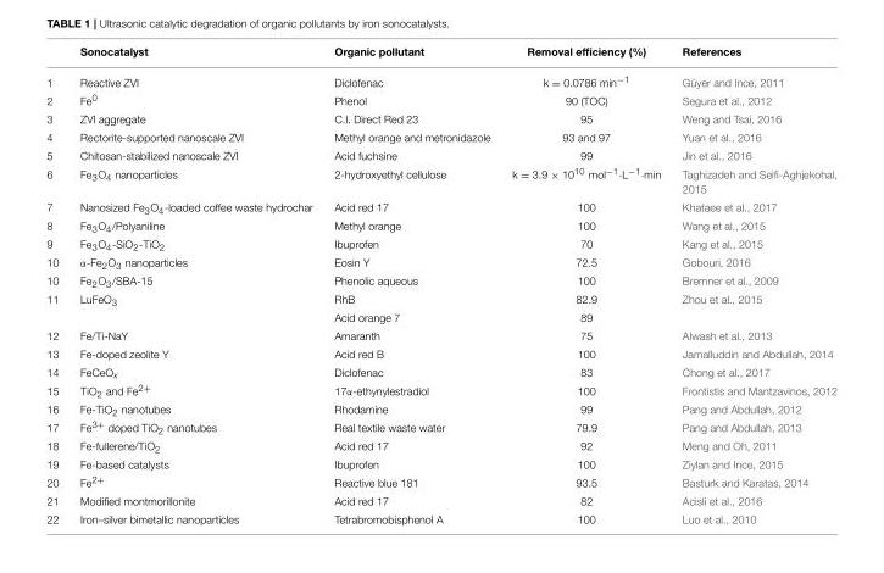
<table><thead><tr><td></td><td>Sonocatalyst</td><td>Organic pollutant</td><td>Removal efficiency (%)</td><td>References</td></tr></thead><tbody><tr><td>1</td><td>Reactive ZVI</td><td>Diclofenac</td><td>k = 0.0786 min<sup>−1</sup></td><td>Güyer and Ince, 2011</td></tr><tr><td>2</td><td>Fe<sup>0</sup></td><td>Phenol</td><td>90 (TOC)</td><td>Segura et al., 2012</td></tr><tr><td>3</td><td>ZVI aggregate</td><td>C.I. Direct Red 23</td><td>95</td><td>Weng and Tsai, 2016</td></tr><tr><td>4</td><td>Rectorite-supported nanoscale ZVI</td><td>Methyl orange and metronidazole</td><td>93 and 97</td><td>Yuan et al., 2016</td></tr><tr><td>5</td><td>Chitosan-stabilized nanoscale ZVI</td><td>Acid fuchsine</td><td>99</td><td>Jin et al., 2016</td></tr><tr><td>6</td><td>Fe<sub>3</sub>O<sub>4</sub> nanoparticles</td><td>2-hydroxyethyl cellulose</td><td>k = 3.9 × 10<sup>10</sup> mol<sup>−1</sup>·L<sup>−1</sup>·min</td><td>Taghizadeh and Seifi-Aghjekohal, 2015</td></tr><tr><td>7</td><td>Nanosized Fe<sub>3</sub>O<sub>4</sub>-loaded coffee waste hydrochar</td><td>Acid red 17</td><td>100</td><td>Khataee et al., 2017</td></tr><tr><td>8</td><td>Fe<sub>3</sub>O<sub>4</sub>/Polyaniline</td><td>Methyl orange</td><td>100</td><td>Wang et al., 2015</td></tr><tr><td>9</td><td>Fe<sub>3</sub>O<sub>4</sub>-SiO<sub>2</sub>-TiO<sub>2</sub></td><td>Ibuprofen</td><td>70</td><td>Kang et al., 2015</td></tr><tr><td>10</td><td>α-Fe<sub>2</sub>O<sub>3</sub> nanoparticles</td><td>Eosin Y</td><td>72.5</td><td>Gobouri, 2016</td></tr><tr><td>10</td><td>Fe<sub>2</sub>O<sub>3</sub>/SBA-15</td><td>Phenolic aqueous</td><td>100</td><td>Bremner et al., 2009</td></tr><tr><td rowspan="2">11</td><td>LuFeO<sub>3</sub></td><td>RhB</td><td>82.9</td><td>Zhou et al., 2015</td></tr><tr><td></td><td>Acid orange 7</td><td>89</td><td></td></tr><tr><td>12</td><td>Fe/Ti-NaY</td><td>Amaranth</td><td>75</td><td>Alwash et al., 2013</td></tr><tr><td>13</td><td>Fe-doped zeolite Y</td><td>Acid red B</td><td>100</td><td>Jamalluddin and Abdullah, 2014</td></tr><tr><td>14</td><td>FeCeO<sub>x</sub></td><td>Diclofenac</td><td>83</td><td>Chong et al., 2017</td></tr><tr><td>15</td><td>TiO<sub>2</sub> and Fe<sup>2+</sup></td><td>17α-ethynylestradiol</td><td>100</td><td>Frontistis and Mantzavinos, 2012</td></tr><tr><td>16</td><td>Fe-TiO<sub>2</sub> nanotubes</td><td>Rhodamine</td><td>99</td><td>Pang and Abdullah, 2012</td></tr><tr><td>17</td><td>Fe<sup>3+</sup> doped TiO<sub>2</sub> nanotubes</td><td>Real textile waste water</td><td>79.9</td><td>Pang and Abdullah, 2013</td></tr><tr><td>18</td><td>Fe-fullerene/TiO<sub>2</sub></td><td>Acid red 17</td><td>92</td><td>Meng and Oh, 2011</td></tr><tr><td>19</td><td>Fe-based catalysts</td><td>Ibuprofen</td><td>100</td><td>Ziylan and Ince, 2015</td></tr><tr><td>20</td><td>Fe<sup>2+</sup></td><td>Reactive blue 181</td><td>93.5</td><td>Basturk and Karatas, 2014</td></tr><tr><td>21</td><td>Modified montmorillonite</td><td>Acid red 17</td><td>82</td><td>Acisli et al., 2016</td></tr><tr><td>22</td><td>Iron–silver bimetallic nanoparticles</td><td>Tetrabromobisphenol A</td><td>100</td><td>Luo et al., 2010</td></tr></tbody></table>